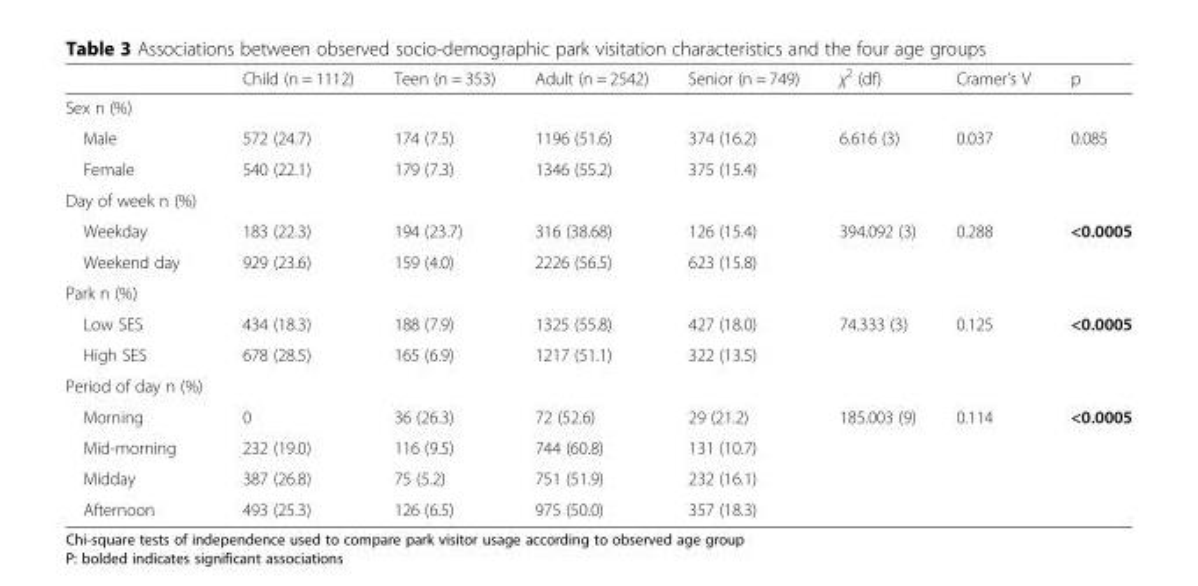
<table><thead><tr><td></td><td>Child (n = 1112)</td><td>Teen (n = 353)</td><td>Adult (n = 2542)</td><td>Senior (n = 749)</td><td>χ<sup>2</sup> (df)</td><td>Cramer’s V</td><td>p</td></tr></thead><tbody><tr><td colspan="8">Sex n (%)</td></tr><tr><td>Male</td><td>572 (24.7)</td><td>174 (7.5)</td><td>1196 (51.6)</td><td>374 (16.2)</td><td>6.616 (3)</td><td>0.037</td><td>0.085</td></tr><tr><td>Female</td><td>540 (22.1)</td><td>179 (7.3)</td><td>1346 (55.2)</td><td>375 (15.4)</td><td></td><td></td><td></td></tr><tr><td colspan="8">Day of week n (%)</td></tr><tr><td>Weekday</td><td>183 (22.3)</td><td>194 (23.7)</td><td>316 (38.68)</td><td>126 (15.4)</td><td>394.092 (3)</td><td>0.288</td><td>&lt;0.0005</td></tr><tr><td>Weekend day</td><td>929 (23.6)</td><td>159 (4.0)</td><td>2226 (56.5)</td><td>623 (15.8)</td><td></td><td></td><td></td></tr><tr><td colspan="8">Park n (%)</td></tr><tr><td>Low SES</td><td>434 (18.3)</td><td>188 (7.9)</td><td>1325 (55.8)</td><td>427 (18.0)</td><td>74.333 (3)</td><td>0.125</td><td>&lt;0.0005</td></tr><tr><td>High SES</td><td>678 (28.5)</td><td>165 (6.9)</td><td>1217 (51.1)</td><td>322 (13.5)</td><td></td><td></td><td></td></tr><tr><td colspan="8">Period of day n (%)</td></tr><tr><td>Morning</td><td>0</td><td>36 (26.3)</td><td>72 (52.6)</td><td>29 (21.2)</td><td>185.003 (9)</td><td>0.114</td><td>&lt;0.0005</td></tr><tr><td>Mid-morning</td><td>232 (19.0)</td><td>116 (9.5)</td><td>744 (60.8)</td><td>131 (10.7)</td><td></td><td></td><td></td></tr><tr><td>Midday</td><td>387 (26.8)</td><td>75 (5.2)</td><td>751 (51.9)</td><td>232 (16.1)</td><td></td><td></td><td></td></tr><tr><td>Afternoon</td><td>493 (25.3)</td><td>126 (6.5)</td><td>975 (50.0)</td><td>357 (18.3)</td><td></td><td></td><td></td></tr></tbody></table>